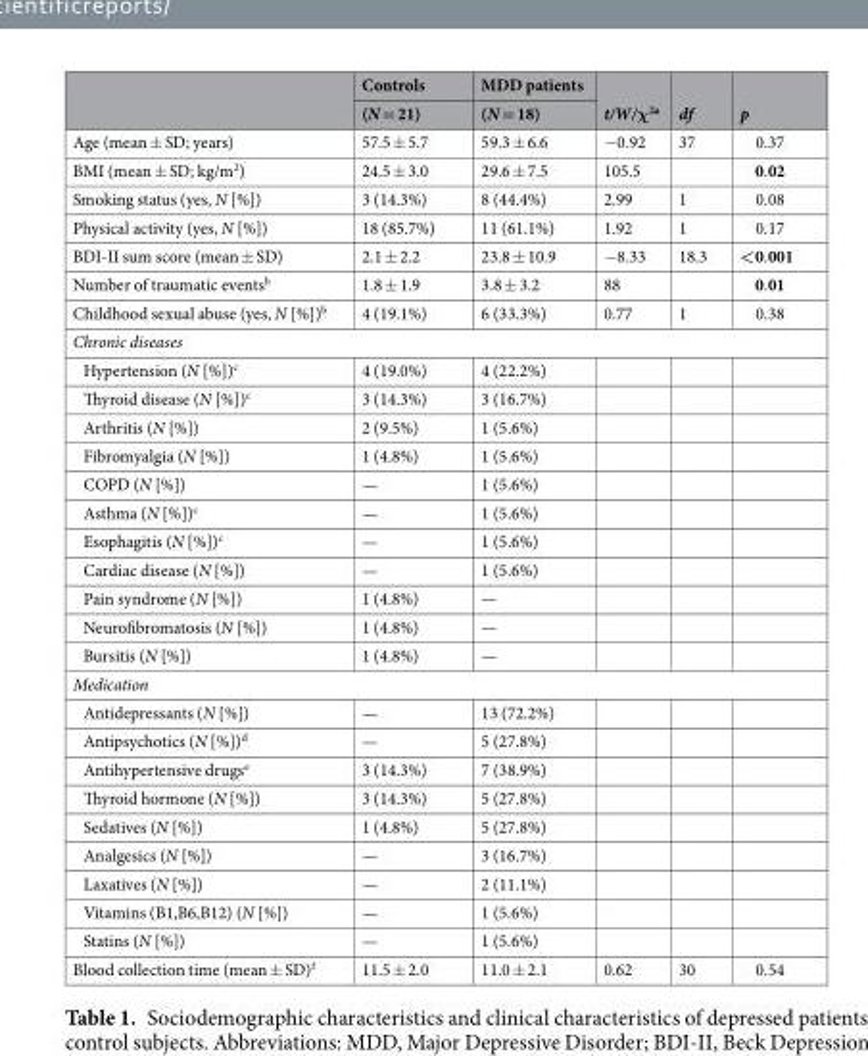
<table><thead><tr><td rowspan="2"></td><td rowspan="2">Controls (N = 21)</td><td rowspan="2">MDD patients (N = 18)</td><td rowspan="2">t/W/χ<sup>2a</sup></td><td rowspan="2">df</td><td rowspan="2">p</td></tr><tr></tr></thead><tbody><tr><td>Age (mean ± SD; years)</td><td>57.5 ± 5.7</td><td>59.3 ± 6.6</td><td>−0.92</td><td>37</td><td>0.37</td></tr><tr><td>BMI (mean ± SD; kg/m<sup>2</sup>)</td><td>24.5 ± 3.0</td><td>29.6 ± 7.5</td><td>105.5</td><td></td><td>0.02</td></tr><tr><td>Smoking status (yes, N [%])</td><td>3 (14.3%)</td><td>8 (44.4%)</td><td>2.99</td><td>1</td><td>0.08</td></tr><tr><td>Physical activity (yes, N [%])</td><td>18 (85.7%)</td><td>11 (61.1%)</td><td>1.92</td><td>1</td><td>0.17</td></tr><tr><td>BDI-II sum score (mean ± SD)</td><td>2.1 ± 2.2</td><td>23.8 ± 10.9</td><td>−8.33</td><td>18.3</td><td>&lt;0.001</td></tr><tr><td>Number of traumatic events<sup>b</sup></td><td>1.8 ± 1.9</td><td>3.8 ± 3.2</td><td>88</td><td></td><td>0.01</td></tr><tr><td>Childhood sexual abuse (yes, N [%])<sup>b</sup></td><td>4 (19.1%)</td><td>6 (33.3%)</td><td>0.77</td><td>1</td><td>0.38</td></tr><tr><td colspan="6">Chronic diseases</td></tr><tr><td>Hypertension (N [%])<sup>c</sup></td><td>4 (19.0%)</td><td>4 (22.2%)</td><td></td><td></td><td></td></tr><tr><td>Thyroid disease (N [%])<sup>c</sup></td><td>3 (14.3%)</td><td>3 (16.7%)</td><td></td><td></td><td></td></tr><tr><td>Arthritis (N [%])</td><td>2 (9.5%)</td><td>1 (5.6%)</td><td></td><td></td><td></td></tr><tr><td>Fibromyalgia (N [%])</td><td>1 (4.8%)</td><td>1 (5.6%)</td><td></td><td></td><td></td></tr><tr><td>COPD (N [%])</td><td>—</td><td>1 (5.6%)</td><td></td><td></td><td></td></tr><tr><td>Asthma (N [%])<sup>c</sup></td><td>—</td><td>1 (5.6%)</td><td></td><td></td><td></td></tr><tr><td>Esophagitis (N [%])<sup>c</sup></td><td>—</td><td>1 (5.6%)</td><td></td><td></td><td></td></tr><tr><td>Cardiac disease (N [%])</td><td>—</td><td>1 (5.6%)</td><td></td><td></td><td></td></tr><tr><td>Pain syndrome (N [%])</td><td>1 (4.8%)</td><td>—</td><td></td><td></td><td></td></tr><tr><td>Neurofibromatosis (N [%])</td><td>1 (4.8%)</td><td>—</td><td></td><td></td><td></td></tr><tr><td>Bursitis (N [%])</td><td>1 (4.8%)</td><td>—</td><td></td><td></td><td></td></tr><tr><td colspan="6">Medication</td></tr><tr><td>Antidepressants (N [%])</td><td>—</td><td>13 (72.2%)</td><td></td><td></td><td></td></tr><tr><td>Antipsychotics (N [%])<sup>d</sup></td><td>—</td><td>5 (27.8%)</td><td></td><td></td><td></td></tr><tr><td>Antihypertensive drugs<sup>e</sup></td><td>3 (14.3%)</td><td>7 (38.9%)</td><td></td><td></td><td></td></tr><tr><td>Thyroid hormone (N [%])</td><td>3 (14.3%)</td><td>5 (27.8%)</td><td></td><td></td><td></td></tr><tr><td>Sedatives (N [%])</td><td>1 (4.8%)</td><td>5 (27.8%)</td><td></td><td></td><td></td></tr><tr><td>Analgesics (N [%])</td><td>—</td><td>3 (16.7%)</td><td></td><td></td><td></td></tr><tr><td>Laxatives (N [%])</td><td>—</td><td>2 (11.1%)</td><td></td><td></td><td></td></tr><tr><td>Vitamins (B1,B6,B12) (N [%])</td><td>—</td><td>1 (5.6%)</td><td></td><td></td><td></td></tr><tr><td>Statins (N [%])</td><td>—</td><td>1 (5.6%)</td><td></td><td></td><td></td></tr><tr><td>Blood collection time (mean ± SD)<sup>f</sup></td><td>11.5 ± 2.0</td><td>11.0 ± 2.1</td><td>0.62</td><td>30</td><td>0.54</td></tr></tbody></table>